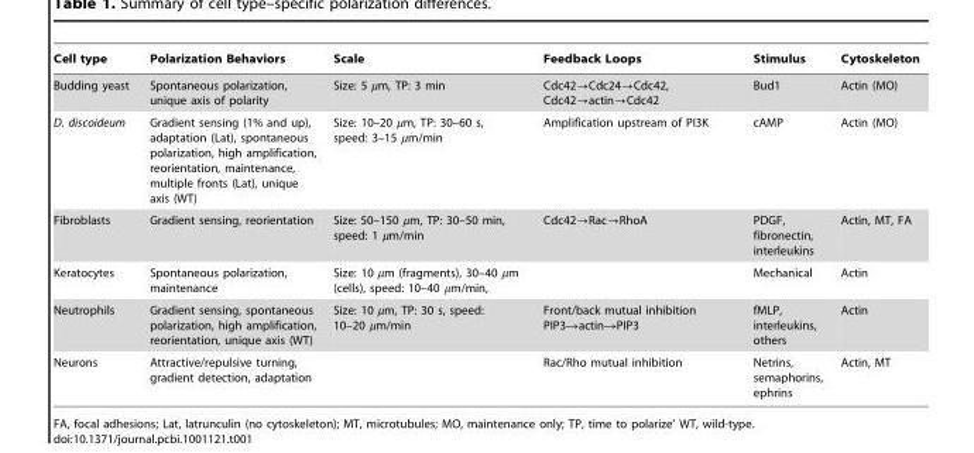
<table><thead><tr><td>Cell type</td><td>Polarization Behaviors</td><td>Scale</td><td>Feedback Loops</td><td>Stimulus</td><td>Cytoskeleton</td></tr></thead><tbody><tr><td>Budding yeast</td><td>Spontaneous polarization, unique axis of polarity</td><td>Size: 5 µm, TP: 3 min</td><td>Cdc42?Cdc24?Cdc42, Cdc42?actin?Cdc42</td><td>Bud1</td><td>Actin (MO)</td></tr><tr><td>D. discoideum</td><td>Gradient sensing (1% and up), adaptation (Lat), spontaneous polarization, high amplification, reorientation, maintenance, multiple fronts (Lat), unique axis (WT)</td><td>Size: 10–20 µm, TP: 30–60 s, speed: 3–15 µm/min</td><td>Amplification upstream of PI3K</td><td>cAMP</td><td>Actin (MO)</td></tr><tr><td>Fibroblasts</td><td>Gradient sensing, reorientation</td><td>Size: 50–150 µm, TP: 30–50 min, speed: 1 µm/min</td><td>Cdc42?Rac?RhoA</td><td>PDGF, fibronectin, interleukins</td><td>Actin, MT, FA</td></tr><tr><td>Keratocytes</td><td>Spontaneous polarization, maintenance</td><td>Size: 10 mm (fragments), 30–40 mm (cells), speed: 10–40 mm/min,</td><td></td><td>Mechanical</td><td>Actin</td></tr><tr><td>Neutrophils</td><td>Gradient sensing, spontaneous polarization, high amplification, reorientation, unique axis (WT)</td><td>Size: 10 µm, TP: 30 s, speed: 10–20 µm/min</td><td>Front/back mutual inhibition PIP3→actin→PIP3</td><td>fMLP, interleukins, others</td><td>Actin</td></tr><tr><td>Neurons</td><td>Attractive/repulsive turning, gradient detection, adaptation</td><td></td><td>Rac/Rho mutual inhibition</td><td>Netrins, semaphorins, ephrins</td><td>Actin, MT</td></tr></tbody></table>